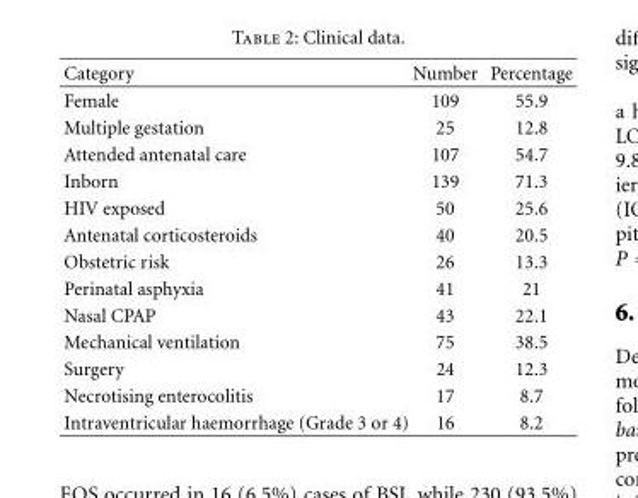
<table><thead><tr><td>Category</td><td>Number</td><td>Percentage</td></tr></thead><tbody><tr><td>Female</td><td>109</td><td>55.9</td></tr><tr><td>Multiple gestation</td><td>25</td><td>12.8</td></tr><tr><td>Attended antenatal care</td><td>107</td><td>54.7</td></tr><tr><td>Inborn</td><td>139</td><td>71.3</td></tr><tr><td>HIV exposed</td><td>50</td><td>25.6</td></tr><tr><td>Antenatal corticosteroids</td><td>40</td><td>20.5</td></tr><tr><td>Obstetric risk</td><td>26</td><td>13.3</td></tr><tr><td>Perinatal asphyxia</td><td>41</td><td>21</td></tr><tr><td>Nasal CPAP</td><td>43</td><td>22.1</td></tr><tr><td>Mechanical ventilation</td><td>75</td><td>38.5</td></tr><tr><td>Surgery</td><td>24</td><td>12.3</td></tr><tr><td>Necrotising enterocolitis</td><td>17</td><td>8.7</td></tr><tr><td>Intraventricular haemorrhage (Grade 3 or 4)</td><td>16</td><td>8.2</td></tr></tbody></table>